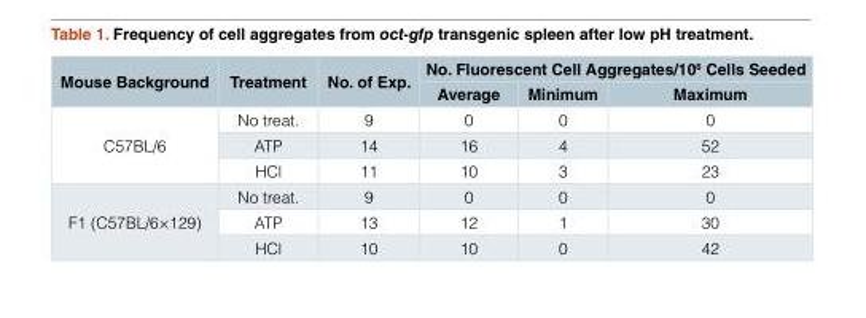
<table><thead><tr><td rowspan="2">Mouse Background</td><td rowspan="2">Treatment</td><td rowspan="2">No. of Exp.</td><td colspan="3">No. Fluorescent Cell Aggregates/10<sup>6</sup> Cells Seeded</td></tr><tr><td>Average</td><td>Minimum</td><td>Maximum</td></tr></thead><tbody><tr><td rowspan="3">C57BL/6</td><td>No treat.</td><td>9</td><td>0</td><td>0</td><td>0</td></tr><tr><td>ATP</td><td>14</td><td>16</td><td>4</td><td>52</td></tr><tr><td>HCl</td><td>11</td><td>10</td><td>3</td><td>23</td></tr><tr><td rowspan="3">F1 (C57BL/6×129)</td><td>No treat.</td><td>9</td><td>0</td><td>0</td><td>0</td></tr><tr><td>ATP</td><td>13</td><td>12</td><td>1</td><td>30</td></tr><tr><td>HCl</td><td>10</td><td>10</td><td>0</td><td>42</td></tr></tbody></table>